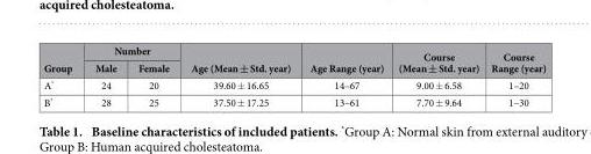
<table><thead><tr><td rowspan="2">Group</td><td colspan="2">Number</td><td rowspan="2">Age (Mean ± Std. year)</td><td rowspan="2">Age Range (year)</td><td rowspan="2">Course (Mean ± Std. year)</td><td rowspan="2">Course Range (year)</td></tr><tr><td>Male</td><td>Female</td></tr></thead><tbody><tr><td>A*</td><td>24</td><td>20</td><td>39.60 ± 16.65</td><td>14–67</td><td>9.00 ± 6.58</td><td>1–20</td></tr><tr><td>B*</td><td>28</td><td>25</td><td>37.50 ± 17.25</td><td>13–61</td><td>7.70 ± 9.64</td><td>1–30</td></tr></tbody></table>